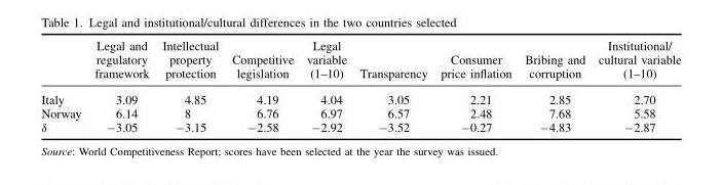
<table><thead><tr><td></td><td>Legal and regulatory framework</td><td>Intellectual property protection</td><td>Competitive legislation</td><td>Legal variable (1–10)</td><td>Transparency</td><td>Consumer price inflation</td><td>Bribing and corruption</td><td>Institutional/ cultural variable (1–10)</td></tr></thead><tbody><tr><td>Italy</td><td>3.09</td><td>4.85</td><td>4.19</td><td>4.04</td><td>3.05</td><td>2.21</td><td>2.85</td><td>2.70</td></tr><tr><td>Norway</td><td>6.14</td><td>8</td><td>6.76</td><td>6.97</td><td>6.57</td><td>2.48</td><td>7.68</td><td>5.58</td></tr><tr><td>δ</td><td>−3.05</td><td>−3.15</td><td>−2.58</td><td>−2.92</td><td>−3.52</td><td>−0.27</td><td>−4.83</td><td>−2.87</td></tr></tbody></table>